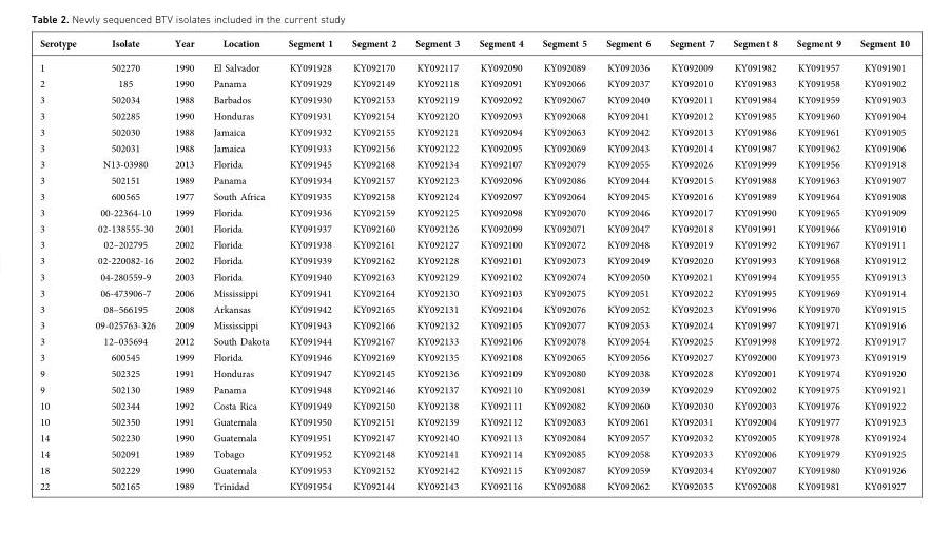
<table><thead><tr><td>Serotype</td><td>Isolate</td><td>Year</td><td>Location</td><td>Segment 1</td><td>Segment 2</td><td>Segment 3</td><td>Segment 4</td><td>Segment 5</td><td>Segment 6</td><td>Segment 7</td><td>Segment 8</td><td>Segment 9</td><td>Segment 10</td></tr></thead><tbody><tr><td>1</td><td>502270</td><td>1990</td><td>El Salvador</td><td>KY091928</td><td>KY092170</td><td>KY092117</td><td>KY092090</td><td>KY092089</td><td>KY092036</td><td>KY092009</td><td>KY091982</td><td>KY091957</td><td>KY091901</td></tr><tr><td>2</td><td>185</td><td>1990</td><td>Panama</td><td>KY091929</td><td>KY092149</td><td>KY092118</td><td>KY092091</td><td>KY092066</td><td>KY092037</td><td>KY092010</td><td>KY091983</td><td>KY091958</td><td>KY091902</td></tr><tr><td>3</td><td>502034</td><td>1988</td><td>Barbados</td><td>KY091930</td><td>KY092153</td><td>KY092119</td><td>KY092092</td><td>KY092067</td><td>KY092040</td><td>KY092011</td><td>KY091984</td><td>KY091959</td><td>KY091903</td></tr><tr><td>3</td><td>502285</td><td>1990</td><td>Honduras</td><td>KY091931</td><td>KY092154</td><td>KY092120</td><td>KY092093</td><td>KY092068</td><td>KY092041</td><td>KY092012</td><td>KY091985</td><td>KY091960</td><td>KY091904</td></tr><tr><td>3</td><td>502030</td><td>1988</td><td>Jamaica</td><td>KY091932</td><td>KY092155</td><td>KY092121</td><td>KY092094</td><td>KY092063</td><td>KY092042</td><td>KY092013</td><td>KY091986</td><td>KY091961</td><td>KY091905</td></tr><tr><td>3</td><td>502031</td><td>1988</td><td>Jamaica</td><td>KY091933</td><td>KY092156</td><td>KY092122</td><td>KY092095</td><td>KY092069</td><td>KY092043</td><td>KY092014</td><td>KY091987</td><td>KY091962</td><td>KY091906</td></tr><tr><td>3</td><td>N13-03980</td><td>2013</td><td>Florida</td><td>KY091945</td><td>KY092168</td><td>KY092134</td><td>KY092107</td><td>KY092079</td><td>KY092055</td><td>KY092026</td><td>KY091999</td><td>KY091956</td><td>KY091918</td></tr><tr><td>3</td><td>502151</td><td>1989</td><td>Panama</td><td>KY091934</td><td>KY092157</td><td>KY092123</td><td>KY092096</td><td>KY092086</td><td>KY092044</td><td>KY092015</td><td>KY091988</td><td>KY091963</td><td>KY091907</td></tr><tr><td>3</td><td>600565</td><td>1977</td><td>South Africa</td><td>KY091935</td><td>KY092158</td><td>KY092124</td><td>KY092097</td><td>KY092064</td><td>KY092045</td><td>KY092016</td><td>KY091989</td><td>KY091964</td><td>KY091908</td></tr><tr><td>3</td><td>00-22364-10</td><td>1999</td><td>Florida</td><td>KY091936</td><td>KY092159</td><td>KY092125</td><td>KY092098</td><td>KY092070</td><td>KY092046</td><td>KY092017</td><td>KY091990</td><td>KY091965</td><td>KY091909</td></tr><tr><td>3</td><td>02-138555-30</td><td>2001</td><td>Florida</td><td>KY091937</td><td>KY092160</td><td>KY092126</td><td>KY092099</td><td>KY092071</td><td>KY092047</td><td>KY092018</td><td>KY091991</td><td>KY091966</td><td>KY091910</td></tr><tr><td>3</td><td>02–202795</td><td>2002</td><td>Florida</td><td>KY091938</td><td>KY092161</td><td>KY092127</td><td>KY092100</td><td>KY092072</td><td>KY092048</td><td>KY092019</td><td>KY091992</td><td>KY091967</td><td>KY091911</td></tr><tr><td>3</td><td>02-220082-16</td><td>2002</td><td>Florida</td><td>KY091939</td><td>KY092162</td><td>KY092128</td><td>KY092101</td><td>KY092073</td><td>KY092049</td><td>KY092020</td><td>KY091993</td><td>KY091968</td><td>KY091912</td></tr><tr><td>3</td><td>04-280559-9</td><td>2003</td><td>Florida</td><td>KY091940</td><td>KY092163</td><td>KY092129</td><td>KY092102</td><td>KY092074</td><td>KY092050</td><td>KY092021</td><td>KY091994</td><td>KY091955</td><td>KY091913</td></tr><tr><td>3</td><td>06-473906-7</td><td>2006</td><td>Mississippi</td><td>KY091941</td><td>KY092164</td><td>KY092130</td><td>KY092103</td><td>KY092075</td><td>KY092051</td><td>KY092022</td><td>KY091995</td><td>KY091969</td><td>KY091914</td></tr><tr><td>3</td><td>08–566195</td><td>2008</td><td>Arkansas</td><td>KY091942</td><td>KY092165</td><td>KY092131</td><td>KY092104</td><td>KY092076</td><td>KY092052</td><td>KY092023</td><td>KY091996</td><td>KY091970</td><td>KY091915</td></tr><tr><td>3</td><td>09-025763-326</td><td>2009</td><td>Mississippi</td><td>KY091943</td><td>KY092166</td><td>KY092132</td><td>KY092105</td><td>KY092077</td><td>KY092053</td><td>KY092024</td><td>KY091997</td><td>KY091971</td><td>KY091916</td></tr><tr><td>3</td><td>12–035694</td><td>2012</td><td>South Dakota</td><td>KY091944</td><td>KY092167</td><td>KY092133</td><td>KY092106</td><td>KY092078</td><td>KY092054</td><td>KY092025</td><td>KY091998</td><td>KY091972</td><td>KY091917</td></tr><tr><td>3</td><td>600545</td><td>1999</td><td>Florida</td><td>KY091946</td><td>KY092169</td><td>KY092135</td><td>KY092108</td><td>KY092065</td><td>KY092056</td><td>KY092027</td><td>KY092000</td><td>KY091973</td><td>KY091919</td></tr><tr><td>9</td><td>502325</td><td>1991</td><td>Honduras</td><td>KY091947</td><td>KY092145</td><td>KY092136</td><td>KY092109</td><td>KY092080</td><td>KY092038</td><td>KY092028</td><td>KY092001</td><td>KY091974</td><td>KY091920</td></tr><tr><td>9</td><td>502130</td><td>1989</td><td>Panama</td><td>KY091948</td><td>KY092146</td><td>KY092137</td><td>KY092110</td><td>KY092081</td><td>KY092039</td><td>KY092029</td><td>KY092002</td><td>KY091975</td><td>KY091921</td></tr><tr><td>10</td><td>502344</td><td>1992</td><td>Costa Rica</td><td>KY091949</td><td>KY092150</td><td>KY092138</td><td>KY092111</td><td>KY092082</td><td>KY092060</td><td>KY092030</td><td>KY092003</td><td>KY091976</td><td>KY091922</td></tr><tr><td>10</td><td>502350</td><td>1991</td><td>Guatemala</td><td>KY091950</td><td>KY092151</td><td>KY092139</td><td>KY092112</td><td>KY092083</td><td>KY092061</td><td>KY092031</td><td>KY092004</td><td>KY091977</td><td>KY091923</td></tr><tr><td>14</td><td>502230</td><td>1990</td><td>Guatemala</td><td>KY091951</td><td>KY092147</td><td>KY092140</td><td>KY092113</td><td>KY092084</td><td>KY092057</td><td>KY092032</td><td>KY092005</td><td>KY091978</td><td>KY091924</td></tr><tr><td>14</td><td>502091</td><td>1989</td><td>Tobago</td><td>KY091952</td><td>KY092148</td><td>KY092141</td><td>KY092114</td><td>KY092085</td><td>KY092058</td><td>KY092033</td><td>KY092006</td><td>KY091979</td><td>KY091925</td></tr><tr><td>18</td><td>502229</td><td>1990</td><td>Guatemala</td><td>KY091953</td><td>KY092152</td><td>KY092142</td><td>KY092115</td><td>KY092087</td><td>KY092059</td><td>KY092034</td><td>KY092007</td><td>KY091980</td><td>KY091926</td></tr><tr><td>22</td><td>502165</td><td>1989</td><td>Trinidad</td><td>KY091954</td><td>KY092144</td><td>KY092143</td><td>KY092116</td><td>KY092088</td><td>KY092062</td><td>KY092035</td><td>KY092008</td><td>KY091981</td><td>KY091927</td></tr></tbody></table>